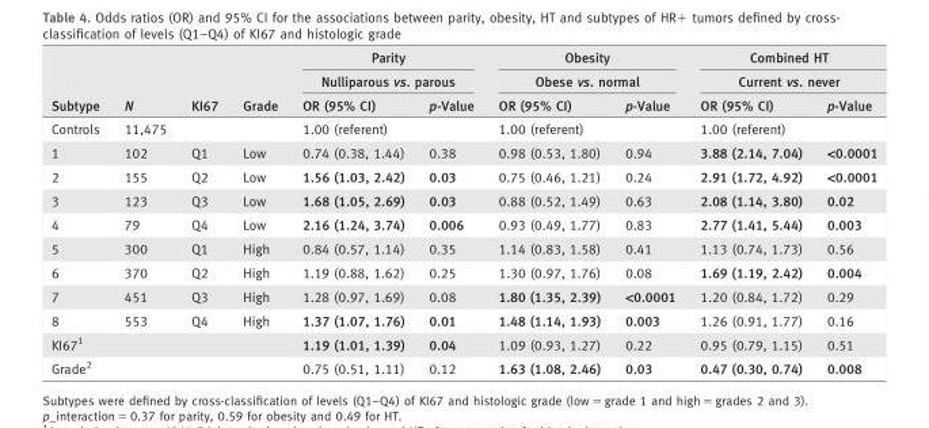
<table><thead><tr><td rowspan="3">Subtype</td><td rowspan="3">N</td><td rowspan="3">KI67</td><td rowspan="3">Grade</td><td rowspan="2" colspan="2">Parity Nulliparous vs. parous</td><td rowspan="2" colspan="2">Obesity Obese vs. normal</td><td rowspan="2" colspan="2">Combined HT Current vs. never</td></tr><tr></tr><tr><td>OR (95% CI)</td><td>p-Value</td><td>OR (95% CI)</td><td>p-Value</td><td>OR (95% CI)</td><td>p-Value</td></tr></thead><tbody><tr><td>Controls</td><td>11,475</td><td></td><td></td><td>1.00 (referent)</td><td></td><td>1.00 (referent)</td><td></td><td>1.00 (referent)</td><td></td></tr><tr><td>1</td><td>102</td><td>Q1</td><td>Low</td><td>0.74 (0.38, 1.44)</td><td>0.38</td><td>0.98 (0.53, 1.80)</td><td>0.94</td><td>3.88 (2.14, 7.04)</td><td>&lt;0.0001</td></tr><tr><td>2</td><td>155</td><td>Q2</td><td>Low</td><td>1.56 (1.03, 2.42)</td><td>0.03</td><td>0.75 (0.46, 1.21)</td><td>0.24</td><td>2.91 (1.72, 4.92)</td><td>&lt;0.0001</td></tr><tr><td>3</td><td>123</td><td>Q3</td><td>Low</td><td>1.68 (1.05, 2.69)</td><td>0.03</td><td>0.88 (0.52, 1.49)</td><td>0.63</td><td>2.08 (1.14, 3.80)</td><td>0.02</td></tr><tr><td>4</td><td>79</td><td>Q4</td><td>Low</td><td>2.16 (1.24, 3.74)</td><td>0.006</td><td>0.93 (0.49, 1.77)</td><td>0.83</td><td>2.77 (1.41, 5.44)</td><td>0.003</td></tr><tr><td>5</td><td>300</td><td>Q1</td><td>High</td><td>0.84 (0.57, 1.14)</td><td>0.35</td><td>1.14 (0.83, 1.58)</td><td>0.41</td><td>1.13 (0.74, 1.73)</td><td>0.56</td></tr><tr><td>6</td><td>370</td><td>Q2</td><td>High</td><td>1.19 (0.88, 1.62)</td><td>0.25</td><td>1.30 (0.97, 1.76)</td><td>0.08</td><td>1.69 (1.19, 2.42)</td><td>0.004</td></tr><tr><td>7</td><td>451</td><td>Q3</td><td>High</td><td>1.28 (0.97, 1.69)</td><td>0.08</td><td>1.80 (1.35, 2.39)</td><td>&lt;0.0001</td><td>1.20 (0.84, 1.72)</td><td>0.29</td></tr><tr><td>8</td><td>553</td><td>Q4</td><td>High</td><td>1.37 (1.07, 1.76)</td><td>0.01</td><td>1.48 (1.14, 1.93)</td><td>0.003</td><td>1.26 (0.91, 1.77)</td><td>0.16</td></tr><tr><td>KI671</td><td></td><td></td><td></td><td>1.19 (1.01, 1.39)</td><td>0.04</td><td>1.09 (0.93, 1.27)</td><td>0.22</td><td>0.95 (0.79, 1.15)</td><td>0.51</td></tr><tr><td>Grade2</td><td></td><td></td><td></td><td>0.75 (0.51, 1.11)</td><td>0.12</td><td>1.63 (1.08, 2.46)</td><td>0.03</td><td>0.47 (0.30, 0.74)</td><td>0.008</td></tr></tbody></table>